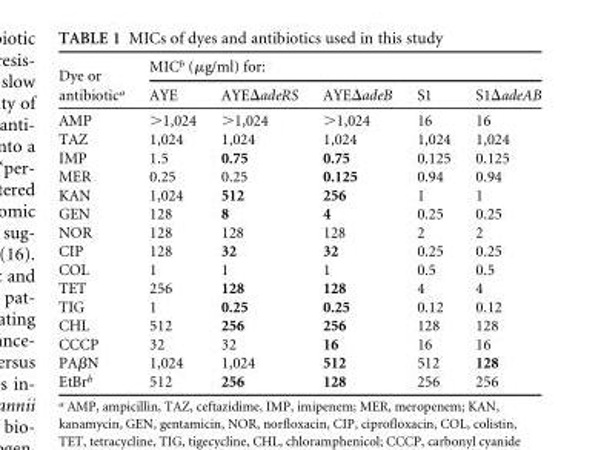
<table><thead><tr><td rowspan="2">Dye or antibiotic<sup>a</sup></td><td colspan="5">MIC<sup>b</sup> (µg/ml) for:</td></tr><tr><td>AYE</td><td>AYEΔadeRS</td><td>AYEΔadeB</td><td>S1</td><td>S1ΔadeAB</td></tr></thead><tbody><tr><td>AMP</td><td>&gt;1,024</td><td>&gt;1,024</td><td>&gt;1,024</td><td>16</td><td>16</td></tr><tr><td>TAZ</td><td>1,024</td><td>1,024</td><td>1,024</td><td>1,024</td><td>1,024</td></tr><tr><td>IMP</td><td>1.5</td><td>0.75</td><td>0.75</td><td>0.125</td><td>0.125</td></tr><tr><td>MER</td><td>0.25</td><td>0.25</td><td>0.125</td><td>0.94</td><td>0.94</td></tr><tr><td>KAN</td><td>1,024</td><td>512</td><td>256</td><td>1</td><td>1</td></tr><tr><td>GEN</td><td>128</td><td>8</td><td>4</td><td>0.25</td><td>0.25</td></tr><tr><td>NOR</td><td>128</td><td>128</td><td>128</td><td>2</td><td>2</td></tr><tr><td>CIP</td><td>128</td><td>32</td><td>32</td><td>0.25</td><td>0.25</td></tr><tr><td>COL</td><td>1</td><td>1</td><td>1</td><td>0.5</td><td>0.5</td></tr><tr><td>TET</td><td>256</td><td>128</td><td>128</td><td>4</td><td>4</td></tr><tr><td>TIG</td><td>1</td><td>0.25</td><td>0.25</td><td>0.12</td><td>0.12</td></tr><tr><td>CHL</td><td>512</td><td>256</td><td>256</td><td>128</td><td>128</td></tr><tr><td>CCCP</td><td>32</td><td>32</td><td>16</td><td>16</td><td>16</td></tr><tr><td>PAβN</td><td>1,024</td><td>1,024</td><td>512</td><td>512</td><td>128</td></tr><tr><td>EtBr<sup>b</sup></td><td>512</td><td>256</td><td>128</td><td>256</td><td>256</td></tr></tbody></table>